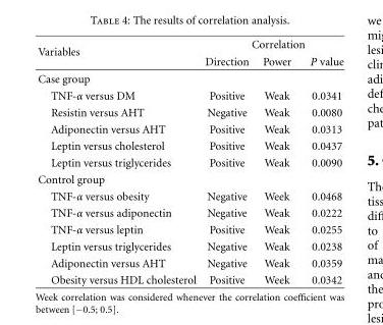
<table><thead><tr><td rowspan="2">Variables</td><td colspan="3">Correlation</td></tr><tr><td>Direction</td><td>Power</td><td>P value</td></tr></thead><tbody><tr><td colspan="4">Case group</td></tr><tr><td>TNF-α versus DM</td><td>Positive</td><td>Weak</td><td>0.0341</td></tr><tr><td>Resistin versus AHT</td><td>Negative</td><td>Weak</td><td>0.0080</td></tr><tr><td>Adiponectin versus AHT</td><td>Positive</td><td>Weak</td><td>0.0313</td></tr><tr><td>Leptin versus cholesterol</td><td>Positive</td><td>Weak</td><td>0.0437</td></tr><tr><td>Leptin versus triglycerides</td><td>Positive</td><td>Weak</td><td>0.0090</td></tr><tr><td colspan="4">Control group</td></tr><tr><td>TNF-α versus obesity</td><td>Negative</td><td>Week</td><td>0.0468</td></tr><tr><td>TNF-α versus adiponectin</td><td>Negative</td><td>Weak</td><td>0.0222</td></tr><tr><td>TNF-α versus leptin</td><td>Positive</td><td>Weak</td><td>0.0255</td></tr><tr><td>Leptin versus triglycerides</td><td>Negative</td><td>Weak</td><td>0.0238</td></tr><tr><td>Adiponectin versus AHT</td><td>Negative</td><td>Weak</td><td>0.0359</td></tr><tr><td>Obesity versus HDL cholesterol</td><td>Positive</td><td>Week</td><td>0.0342</td></tr></tbody></table>